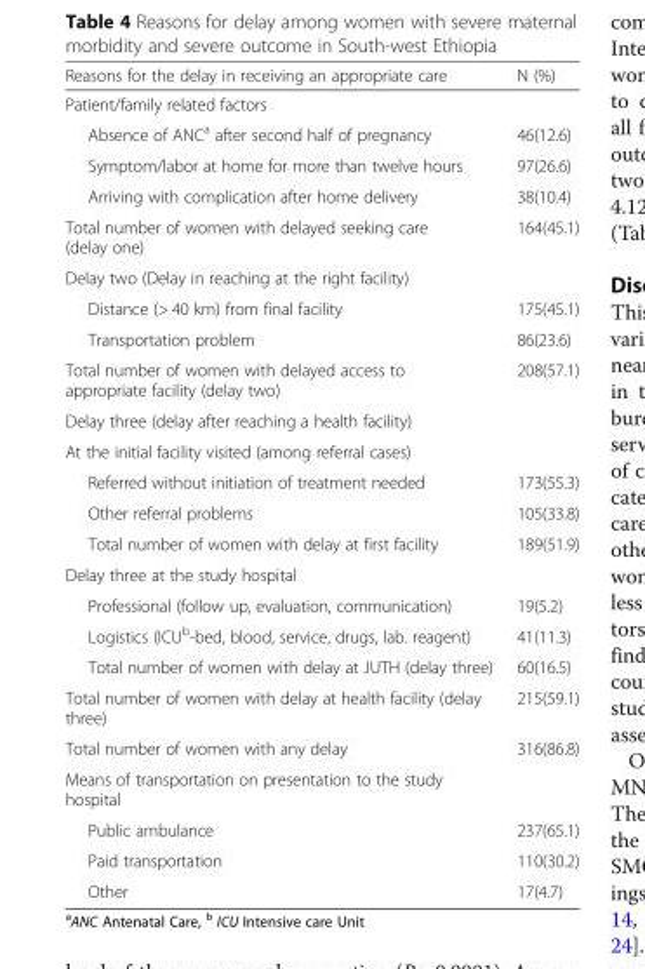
<table><thead><tr><td>Reasons for the delay in receiving an appropriate care</td><td>N (%)</td></tr></thead><tbody><tr><td colspan="2">Patient/family related factors</td></tr><tr><td>Absence of ANCa after second half of pregnancy</td><td>46(12.6)</td></tr><tr><td>Symptom/labor at home for more than twelve hours</td><td>97(26.6)</td></tr><tr><td>Arriving with complication after home delivery</td><td>38(10.4)</td></tr><tr><td>Total number of women with delayed seeking care (delay one)</td><td>164(45.1)</td></tr><tr><td colspan="2">Delay two (Delay in reaching at the right facility)</td></tr><tr><td>Distance (&gt; 40 km) from final facility</td><td>175(45.1)</td></tr><tr><td>Transportation problem</td><td>86(23.6)</td></tr><tr><td>Total number of women with delayed access to appropriate facility (delay two)</td><td>208(57.1)</td></tr><tr><td colspan="2">Delay three (delay after reaching a health facility)</td></tr><tr><td colspan="2">At the initial facility visited (among referral cases)</td></tr><tr><td>Referred without initiation of treatment needed</td><td>173(55.3)</td></tr><tr><td>Other referral problems</td><td>105(33.8)</td></tr><tr><td>Total number of women with delay at first facility</td><td>189(51.9)</td></tr><tr><td colspan="2">Delay three at the study hospital</td></tr><tr><td>Professional (follow up, evaluation, communication)</td><td>19(5.2)</td></tr><tr><td>Logistics (ICUb-bed, blood, service, drugs, lab. reagent)</td><td>41(11.3)</td></tr><tr><td>Total number of women with delay at JUTH (delay three)</td><td>60(16.5)</td></tr><tr><td>Total number of women with delay at health facility (delay three)</td><td>215(59.1)</td></tr><tr><td>Total number of women with any delay</td><td>316(86.8)</td></tr><tr><td colspan="2">Means of transportation on presentation to the study hospital</td></tr><tr><td>Public ambulance</td><td>237(65.1)</td></tr><tr><td>Paid transportation</td><td>110(30.2)</td></tr><tr><td>Other</td><td>17(4.7)</td></tr></tbody></table>